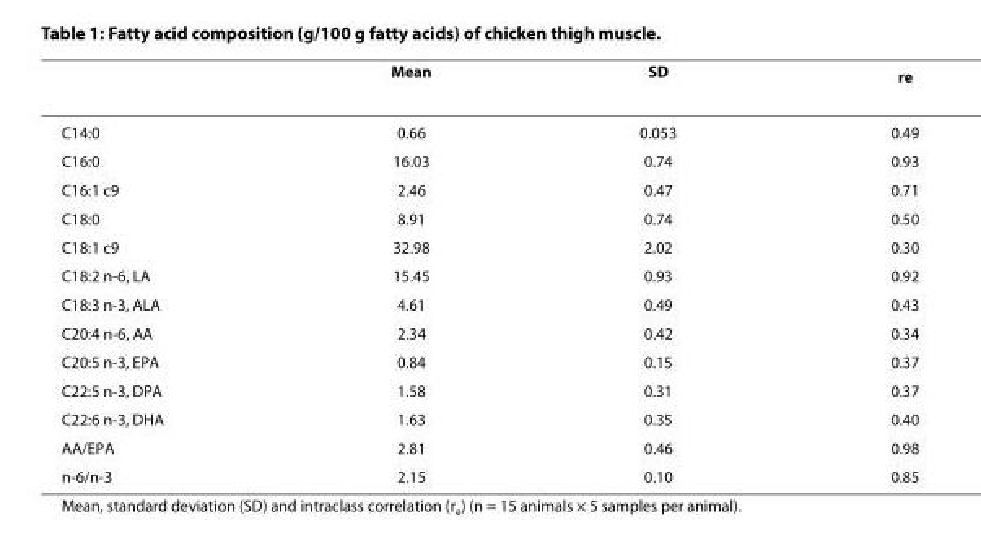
<table><thead><tr><td></td><td>Mean</td><td>SD</td><td>r<sub>e</sub></td></tr></thead><tbody><tr><td>C14:0</td><td>0.66</td><td>0.053</td><td>0.49</td></tr><tr><td>C16:0</td><td>16.03</td><td>0.74</td><td>0.93</td></tr><tr><td>C16:1 c9</td><td>2.46</td><td>0.47</td><td>0.71</td></tr><tr><td>C18:0</td><td>8.91</td><td>0.74</td><td>0.50</td></tr><tr><td>C18:1 c9</td><td>32.98</td><td>2.02</td><td>0.30</td></tr><tr><td>C18:2 n-6, LA</td><td>15.45</td><td>0.93</td><td>0.92</td></tr><tr><td>C18:3 n-3, ALA</td><td>4.61</td><td>0.49</td><td>0.43</td></tr><tr><td>C20:4 n-6, AA</td><td>2.34</td><td>0.42</td><td>0.34</td></tr><tr><td>C20:5 n-3, EPA</td><td>0.84</td><td>0.15</td><td>0.37</td></tr><tr><td>C22:5 n-3, DPA</td><td>1.58</td><td>0.31</td><td>0.37</td></tr><tr><td>C22:6 n-3, DHA</td><td>1.63</td><td>0.35</td><td>0.40</td></tr><tr><td>AA/EPA</td><td>2.81</td><td>0.46</td><td>0.98</td></tr><tr><td>n-6/n-3</td><td>2.15</td><td>0.10</td><td>0.85</td></tr></tbody></table>